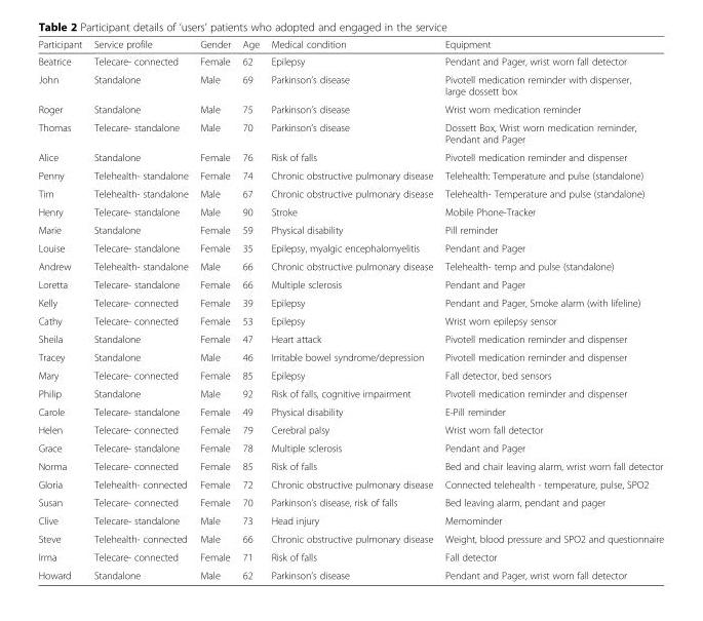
<table><thead><tr><td>Participant</td><td>Service profile</td><td>Gender</td><td>Age</td><td>Medical condition</td><td>Equipment</td></tr></thead><tbody><tr><td>Beatrice</td><td>Telecare- connected</td><td>Female</td><td>62</td><td>Epilepsy</td><td>Pendant and Pager, wrist worn fall detector</td></tr><tr><td>John</td><td>Standalone</td><td>Male</td><td>69</td><td>Parkinson’s disease</td><td>Pivotell medication reminder with dispenser, large dossett box</td></tr><tr><td>Roger</td><td>Standalone</td><td>Male</td><td>75</td><td>Parkinson’s disease</td><td>Wrist worn medication reminder</td></tr><tr><td>Thomas</td><td>Telecare- standalone</td><td>Male</td><td>70</td><td>Parkinson’s disease</td><td>Dossett Box, Wrist worn medication reminder, Pendant and Pager</td></tr><tr><td>Alice</td><td>Standalone</td><td>Female</td><td>76</td><td>Risk of falls</td><td>Pivotell medication reminder and dispenser</td></tr><tr><td>Penny</td><td>Telehealth- standalone</td><td>Female</td><td>74</td><td>Chronic obstructive pulmonary disease</td><td>Telehealth: Temperature and pulse (standalone)</td></tr><tr><td>Tim</td><td>Telehealth- standalone</td><td>Male</td><td>67</td><td>Chronic obstructive pulmonary disease</td><td>Telehealth- Temperature and pulse (standalone)</td></tr><tr><td>Henry</td><td>Telecare- standalone</td><td>Male</td><td>90</td><td>Stroke</td><td>Mobile Phone-Tracker</td></tr><tr><td>Marie</td><td>Standalone</td><td>Female</td><td>59</td><td>Physical disability</td><td>Pill reminder</td></tr><tr><td>Louise</td><td>Telecare- standalone</td><td>Female</td><td>35</td><td>Epilepsy, myalgic encephalomyelitis</td><td>Pendant and Pager</td></tr><tr><td>Andrew</td><td>Telehealth- standalone</td><td>Male</td><td>66</td><td>Chronic obstructive pulmonary disease</td><td>Telehealth- temp and pulse (standalone)</td></tr><tr><td>Loretta</td><td>Telecare- standalone</td><td>Female</td><td>66</td><td>Multiple sclerosis</td><td>Pendant and Pager</td></tr><tr><td>Kelly</td><td>Telecare- connected</td><td>Female</td><td>39</td><td>Epilepsy</td><td>Pendant and Pager, Smoke alarm (with lifeline)</td></tr><tr><td>Cathy</td><td>Telecare- connected</td><td>Female</td><td>53</td><td>Epilepsy</td><td>Wrist worn epilepsy sensor</td></tr><tr><td>Sheila</td><td>Standalone</td><td>Female</td><td>47</td><td>Heart attack</td><td>Pivotell medication reminder and dispenser</td></tr><tr><td>Tracey</td><td>Standalone</td><td>Male</td><td>46</td><td>Irritable bowel syndrome/depression</td><td>Pivotell medication reminder and dispenser</td></tr><tr><td>Mary</td><td>Telecare- connected</td><td>Female</td><td>85</td><td>Epilepsy</td><td>Fall detector, bed sensors</td></tr><tr><td>Philip</td><td>Standalone</td><td>Male</td><td>92</td><td>Risk of falls, cognitive impairment</td><td>Pivotell medication reminder and dispenser</td></tr><tr><td>Carole</td><td>Telecare- standalone</td><td>Female</td><td>49</td><td>Physical disability</td><td>E-Pill reminder</td></tr><tr><td>Helen</td><td>Telecare- connected</td><td>Female</td><td>79</td><td>Cerebral palsy</td><td>Wrist worn fall detector</td></tr><tr><td>Grace</td><td>Telecare- standalone</td><td>Female</td><td>78</td><td>Multiple sclerosis</td><td>Pendant and Pager</td></tr><tr><td>Norma</td><td>Telecare- connected</td><td>Female</td><td>85</td><td>Risk of falls</td><td>Bed and chair leaving alarm, wrist worn fall detector</td></tr><tr><td>Gloria</td><td>Telehealth- connected</td><td>Female</td><td>72</td><td>Chronic obstructive pulmonary disease</td><td>Connected telehealth - temperature, pulse, SPO2</td></tr><tr><td>Susan</td><td>Telecare- connected</td><td>Female</td><td>70</td><td>Parkinson’s disease, risk of falls</td><td>Bed leaving alarm, pendant and pager</td></tr><tr><td>Clive</td><td>Telecare- standalone</td><td>Male</td><td>73</td><td>Head injury</td><td>Memominder</td></tr><tr><td>Steve</td><td>Telehealth- connected</td><td>Male</td><td>66</td><td>Chronic obstructive pulmonary disease</td><td>Weight, blood pressure and SPO2 and questionnaire</td></tr><tr><td>Irma</td><td>Telecare- connected</td><td>Female</td><td>71</td><td>Risk of falls</td><td>Fall detector</td></tr><tr><td>Howard</td><td>Standalone</td><td>Male</td><td>62</td><td>Parkinson’s disease</td><td>Pendant and Pager, wrist worn fall detector</td></tr></tbody></table>